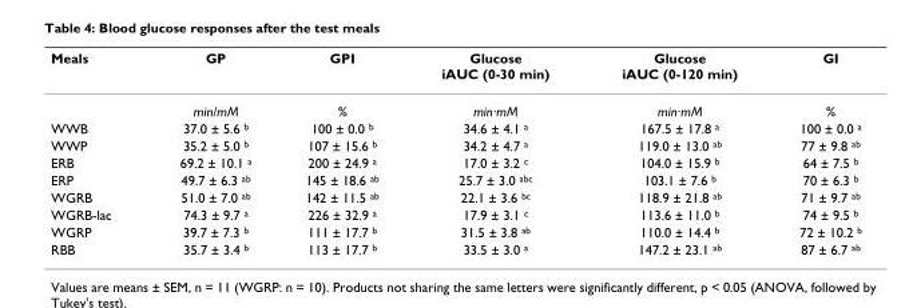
<table><thead><tr><td>Meals</td><td>GP</td><td>GPI</td><td>Glucose iAUC (0-30 min)</td><td>Glucose iAUC (0-120 min)</td><td>GI</td></tr></thead><tbody><tr><td></td><td>min/mM</td><td>%</td><td>min·mM</td><td>min·mM</td><td>%</td></tr><tr><td>WWB</td><td>37.0 ± 5.6 <sup>b</sup></td><td>100 ± 0.0 <sup>b</sup></td><td>34.6 ± 4.1 <sup>a</sup></td><td>167.5 ± 17.8 <sup>a</sup></td><td>100 ± 0.0 <sup>a</sup></td></tr><tr><td>WWP</td><td>35.2 ± 5.0 <sup>b</sup></td><td>107 ± 15.6 <sup>b</sup></td><td>34.2 ± 4.7 <sup>a</sup></td><td>119.0 ± 13.0 <sup>ab</sup></td><td>77 ± 9.8 <sup>ab</sup></td></tr><tr><td>ERB</td><td>69.2 ± 10.1 <sup>a</sup></td><td>200 ± 24.9 <sup>a</sup></td><td>17.0 ± 3.2 <sup>c</sup></td><td>104.0 ± 15.9 <sup>b</sup></td><td>64 ± 7.5 <sup>b</sup></td></tr><tr><td>ERP</td><td>49.7 ± 6.3 <sup>ab</sup></td><td>145 ± 18.6 <sup>ab</sup></td><td>25.7 ± 3.0 <sup>abc</sup></td><td>103.1 ± 7.6 <sup>b</sup></td><td>70 ± 6.3 <sup>b</sup></td></tr><tr><td>WGRB</td><td>51.0 ± 7.0 <sup>ab</sup></td><td>142 ± 11.5 <sup>ab</sup></td><td>22.1 ± 3.6 <sup>bc</sup></td><td>118.9 ± 21.8 <sup>ab</sup></td><td>71 ± 9.7 <sup>ab</sup></td></tr><tr><td>WGRB-lac</td><td>74.3 ± 9.7 <sup>a</sup></td><td>226 ± 32.9 <sup>a</sup></td><td>17.9 ± 3.1 <sup>c</sup></td><td>113.6 ± 11.0 <sup>b</sup></td><td>74 ± 9.5 <sup>b</sup></td></tr><tr><td>WGRP</td><td>39.7 ± 7.3 <sup>b</sup></td><td>111 ± 17.7 <sup>b</sup></td><td>31.5 ± 3.8 <sup>ab</sup></td><td>110.0 ± 14.4 <sup>b</sup></td><td>72 ± 10.2 <sup>b</sup></td></tr><tr><td>RBB</td><td>35.7 ± 3.4 <sup>b</sup></td><td>113 ± 17.7 <sup>b</sup></td><td>33.5 ± 3.0 <sup>a</sup></td><td>147.2 ± 23.1 <sup>ab</sup></td><td>87 ± 6.7 <sup>ab</sup></td></tr></tbody></table>